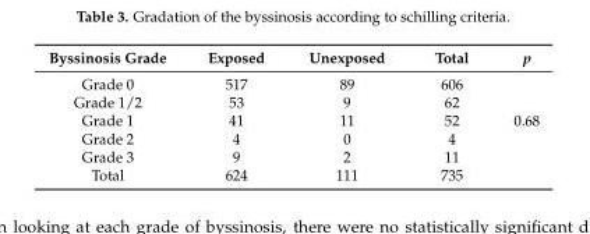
<table><thead><tr><td>Byssinosis Grade</td><td>Exposed</td><td>Unexposed</td><td>Total</td><td>p</td></tr></thead><tbody><tr><td>Grade 0</td><td>517</td><td>89</td><td>606</td><td></td></tr><tr><td>Grade 1/2</td><td>53</td><td>9</td><td>62</td><td></td></tr><tr><td>Grade 1</td><td>41</td><td>11</td><td>52</td><td>0.68</td></tr><tr><td>Grade 2</td><td>4</td><td>0</td><td>4</td><td></td></tr><tr><td>Grade 3</td><td>9</td><td>2</td><td>11</td><td></td></tr><tr><td>Total</td><td>624</td><td>111</td><td>735</td><td></td></tr></tbody></table>